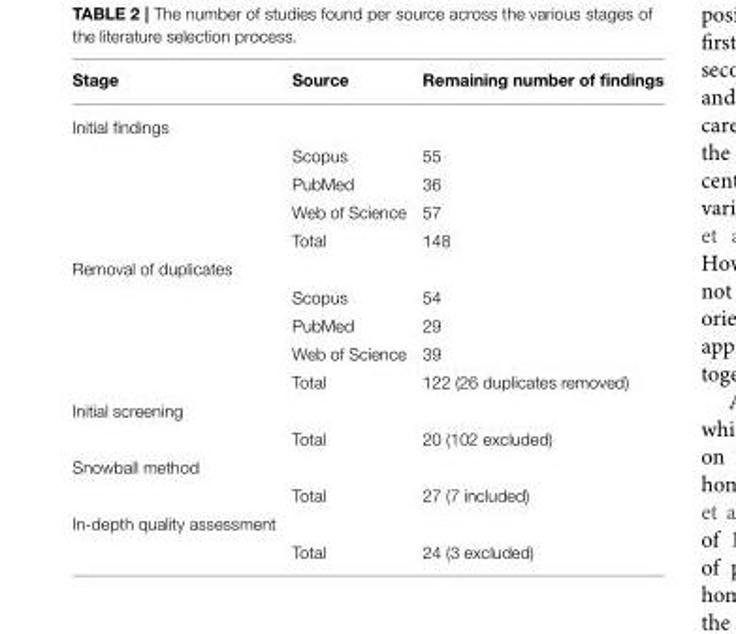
<table><thead><tr><td>Stage</td><td>Source</td><td>Remaining number of findings</td></tr></thead><tbody><tr><td colspan="3">Initial findings</td></tr><tr><td></td><td>Scopus</td><td>55</td></tr><tr><td></td><td>PubMed</td><td>36</td></tr><tr><td></td><td>Web of Science</td><td>57</td></tr><tr><td></td><td>Total</td><td>148</td></tr><tr><td colspan="3">Removal of duplicates</td></tr><tr><td></td><td>Scopus</td><td>54</td></tr><tr><td></td><td>PubMed</td><td>29</td></tr><tr><td></td><td>Web of Science</td><td>39</td></tr><tr><td></td><td>Total</td><td>122 (26 duplicates removed)</td></tr><tr><td colspan="3">Initial screening</td></tr><tr><td></td><td>Total</td><td>20 (102 excluded)</td></tr><tr><td colspan="3">Snowball method</td></tr><tr><td></td><td>Total</td><td>27 (7 included)</td></tr><tr><td colspan="3">In-depth quality assessment</td></tr><tr><td></td><td>Total</td><td>24 (3 excluded)</td></tr></tbody></table>